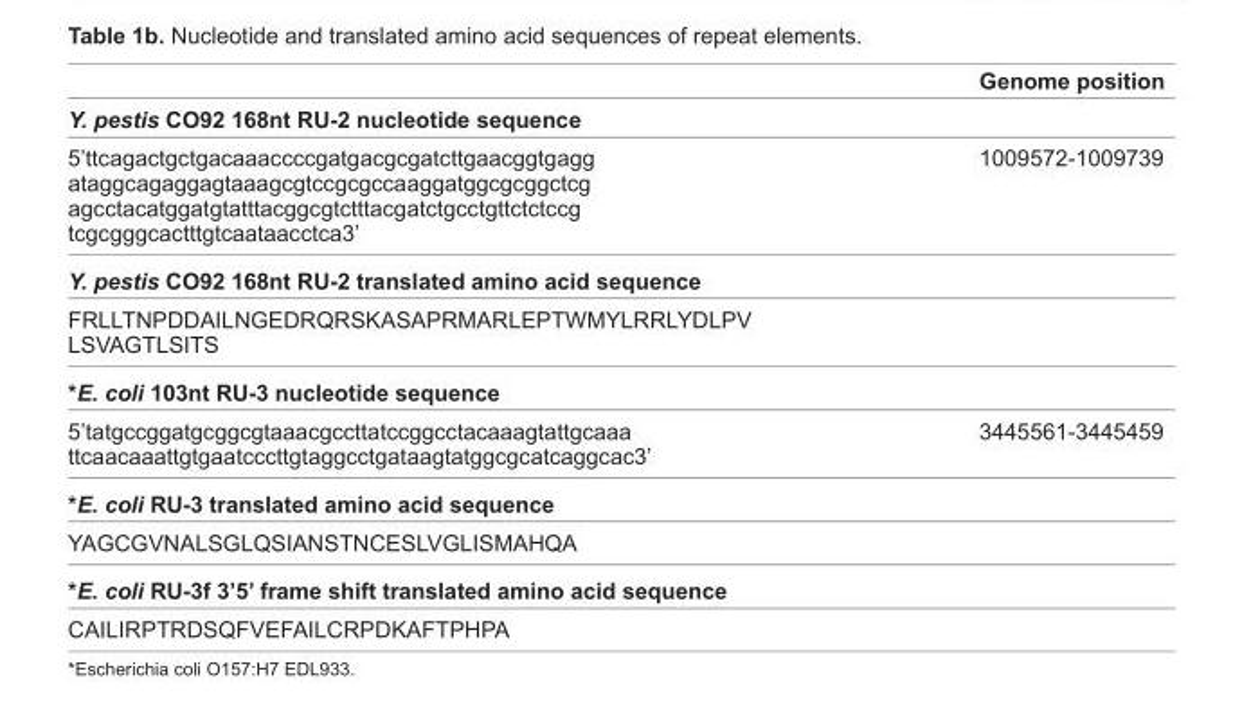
<table><thead><tr><td></td><td>Genome position</td></tr></thead><tbody><tr><td colspan="2">Y. pestis CO92 168nt RU-2 nucleotide sequence</td></tr><tr><td>5’ttcagactgctgacaaaccccgatgacgcgatcttgaacggtgagg ataggcagaggagtaaagcgtccgcgccaaggatggcgcggctcg agcctacatggatgtatttacggcgtctttacgatctgcctgttctctccg tcgcgggcactttgtcaataacctca3’</td><td>1009572-1009739</td></tr><tr><td colspan="2">Y. pestis CO92 168nt RU-2 translated amino acid sequence</td></tr><tr><td colspan="2">FRLLTNPDDAILNGEDRQRSKASAPRMARLEPTWMYLRRLYDLPV LSVAGTLSITS</td></tr><tr><td colspan="2">*E. coli 103nt RU-3 nucleotide sequence</td></tr><tr><td>5’tatgccggatgcggcgtaaacgccttatccggcctacaaagtattgcaaa ttcaacaaattgtgaatcccttgtaggcctgataagtatggcgcatcaggcac3’</td><td>3445561-3445459</td></tr><tr><td colspan="2">*E. coli RU-3 translated amino acid sequence</td></tr><tr><td colspan="2">YAGCGVNALSGLQSIANSTNCESLVGLISMAHQA</td></tr><tr><td colspan="2">*E. coli RU-3f 3’5’ frame shift translated amino acid sequence</td></tr><tr><td>CAILIRPTRDSQFVEFAILCRPDKAFTPHPA</td><td></td></tr></tbody></table>